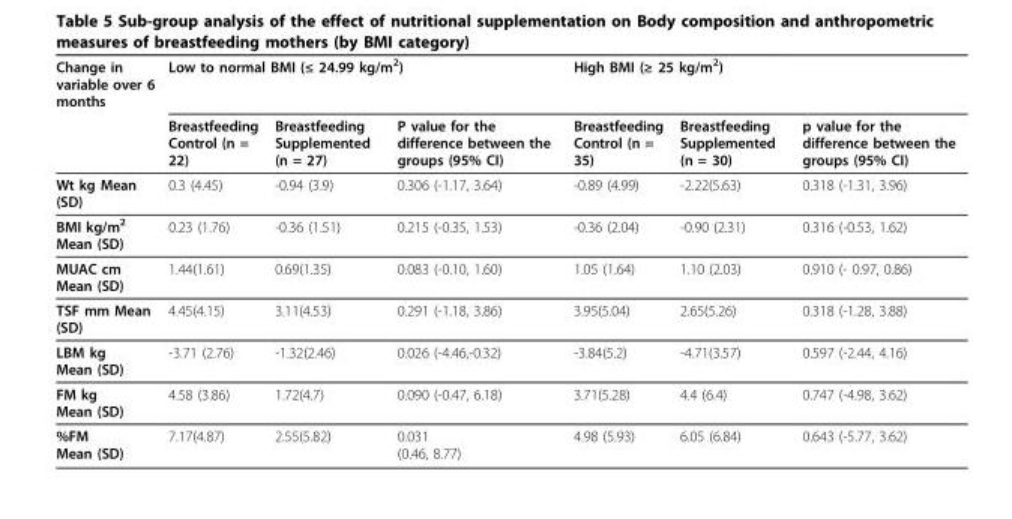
<table><thead><tr><td rowspan="2">Change in variable over 6 months</td><td colspan="3">Low to normal BMI (≤ 24.99 kg/m<sup>2</sup>)</td><td colspan="3">High BMI (≥ 25 kg/m<sup>2</sup>)</td></tr><tr><td>Breastfeeding Control (n = 22)</td><td>Breastfeeding Supplemented (n = 27)</td><td>P value for the difference between the groups (95% CI)</td><td>Breastfeeding Control (n = 35)</td><td>Breastfeeding Supplemented (n = 30)</td><td>p value for the difference between the groups (95% CI)</td></tr></thead><tbody><tr><td>Wt kg Mean (SD)</td><td>0.3 (4.45)</td><td>-0.94 (3.9)</td><td>0.306 (-1.17, 3.64)</td><td>-0.89 (4.99)</td><td>-2.22(5.63)</td><td>0.318 (-1.31, 3.96)</td></tr><tr><td>BMI kg/m<sup>2</sup> Mean (SD)</td><td>0.23 (1.76)</td><td>-0.36 (1.51)</td><td>0.215 (-0.35, 1.53)</td><td>-0.36 (2.04)</td><td>-0.90 (2.31)</td><td>0.316 (-0.53, 1.62)</td></tr><tr><td>MUAC cm Mean (SD)</td><td>1.44(1.61)</td><td>0.69(1.35)</td><td>0.083 (-0.10, 1.60)</td><td>1.05 (1.64)</td><td>1.10 (2.03)</td><td>0.910 (- 0.97, 0.86)</td></tr><tr><td>TSF mm Mean (SD)</td><td>4.45(4.15)</td><td>3.11(4.53)</td><td>0.291 (-1.18, 3.86)</td><td>3.95(5.04)</td><td>2.65(5.26)</td><td>0.318 (-1.28, 3.88)</td></tr><tr><td>LBM kg Mean (SD)</td><td>-3.71 (2.76)</td><td>-1.32(2.46)</td><td>0.026 (-4.46,-0.32)</td><td>-3.84(5.2)</td><td>-4.71(3.57)</td><td>0.597 (-2.44, 4.16)</td></tr><tr><td>FM kg Mean (SD)</td><td>4.58 (3.86)</td><td>1.72(4.7)</td><td>0.090 (-0.47, 6.18)</td><td>3.71(5.28)</td><td>4.4 (6.4)</td><td>0.747 (-4.98, 3.62)</td></tr><tr><td>%FM Mean (SD)</td><td>7.17(4.87)</td><td>2.55(5.82)</td><td>0.031 (0.46, 8.77)</td><td>4.98 (5.93)</td><td>6.05 (6.84)</td><td>0.643 (-5.77, 3.62)</td></tr></tbody></table>